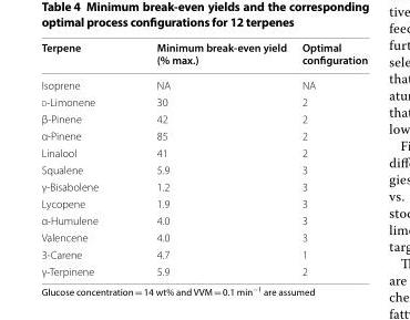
<table><thead><tr><td>Terpene</td><td>Minimum break‑even yield (% max.)</td><td>Optimal configuration</td></tr></thead><tbody><tr><td>Isoprene</td><td>NA</td><td>NA</td></tr><tr><td>d-Limonene</td><td>30</td><td>2</td></tr><tr><td>β-Pinene</td><td>42</td><td>2</td></tr><tr><td>α-Pinene</td><td>85</td><td>2</td></tr><tr><td>Linalool</td><td>41</td><td>2</td></tr><tr><td>Squalene</td><td>5.9</td><td>3</td></tr><tr><td>γ-Bisabolene</td><td>1.2</td><td>3</td></tr><tr><td>Lycopene</td><td>1.9</td><td>3</td></tr><tr><td>α-Humulene</td><td>4.0</td><td>3</td></tr><tr><td>Valencene</td><td>4.0</td><td>3</td></tr><tr><td>3-Carene</td><td>4.7</td><td>1</td></tr><tr><td>γ-Terpinene</td><td>5.9</td><td>2</td></tr></tbody></table>